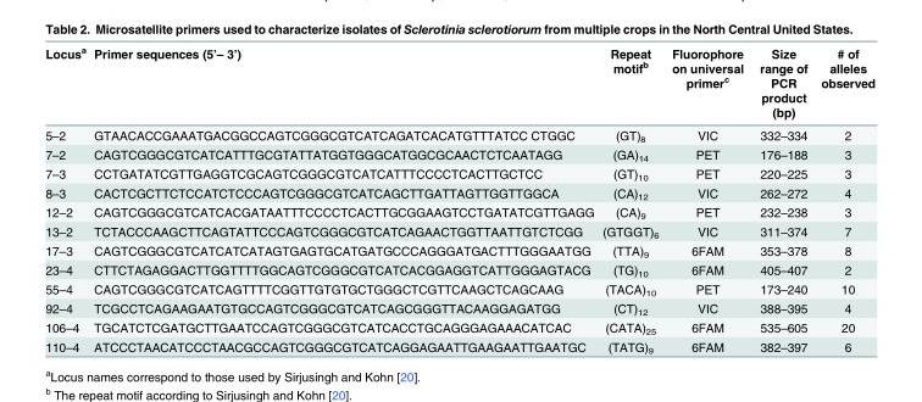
<table><thead><tr><td>Locus<sup>a</sup></td><td>Primer sequences (5’– 3’)</td><td>Repeat motif<sup>b</sup></td><td>Fluorophore on universal primer<sup>c</sup></td><td>Size range of PCR product (bp)</td><td># of alleles observed</td></tr></thead><tbody><tr><td>5–2</td><td>GTAACACCGAAATGACGGCCAGTCGGGCGTCATCAGATCACATGTTTATCC CTGGC</td><td>(GT)<sub>8</sub></td><td>VIC</td><td>332–334</td><td>2</td></tr><tr><td>7–2</td><td>CAGTCGGGCGTCATCATTTGCGTATTATGGTGGGCATGGCGCAACTCTCAATAGG</td><td>(GA)<sub>14</sub></td><td>PET</td><td>176–188</td><td>3</td></tr><tr><td>7–3</td><td>CCTGATATCGTTGAGGTCGCAGTCGGGCGTCATCATTTCCCCTCACTTGCTCC</td><td>(GT)<sub>10</sub></td><td>PET</td><td>220–225</td><td>3</td></tr><tr><td>8–3</td><td>CACTCGCTTCTCCATCTCCCAGTCGGGCGTCATCAGCTTGATTAGTTGGTTGGCA</td><td>(CA)<sub>12</sub></td><td>VIC</td><td>262–272</td><td>4</td></tr><tr><td>12–2</td><td>CAGTCGGGCGTCATCACGATAATTTCCCCTCACTTGCGGAAGTCCTGATATCGTTGAGG</td><td>(CA)<sub>9</sub></td><td>PET</td><td>232–238</td><td>3</td></tr><tr><td>13–2</td><td>TCTACCCAAGCTTCAGTATTCCCAGTCGGGCGTCATCAGAACTGGTTAATTGTCTCGG</td><td>(GTGGT)<sub>6</sub></td><td>VIC</td><td>311–374</td><td>7</td></tr><tr><td>17–3</td><td>CAGTCGGGCGTCATCATCATAGTGAGTGCATGATGCCCAGGGATGACTTTGGGAATGG</td><td>(TTA)<sub>9</sub></td><td>6FAM</td><td>353–378</td><td>8</td></tr><tr><td>23–4</td><td>CTTCTAGAGGACTTGGTTTTGGCAGTCGGGCGTCATCACGGAGGTCATTGGGAGTACG</td><td>(TG)<sub>10</sub></td><td>6FAM</td><td>405–407</td><td>2</td></tr><tr><td>55–4</td><td>CAGTCGGGCGTCATCAGTTTTCGGTTGTGTGCTGGGCTCGTTCAAGCTCAGCAAG</td><td>(TACA)<sub>10</sub></td><td>PET</td><td>173–240</td><td>10</td></tr><tr><td>92–4</td><td>TCGCCTCAGAAGAATGTGCCAGTCGGGCGTCATCAGCGGGTTACAAGGAGATGG</td><td>(CT)<sub>12</sub></td><td>VIC</td><td>388–395</td><td>4</td></tr><tr><td>106–4</td><td>TGCATCTCGATGCTTGAATCCAGTCGGGCGTCATCACCTGCAGGGAGAAACATCAC</td><td>(CATA)<sub>25</sub></td><td>6FAM</td><td>535–605</td><td>20</td></tr><tr><td>110–4</td><td>ATCCCTAACATCCCTAACGCCAGTCGGGCGTCATCAGGAGAATTGAAGAATTGAATGC</td><td>(TATG)<sub>9</sub></td><td>6FAM</td><td>382–397</td><td>6</td></tr></tbody></table>